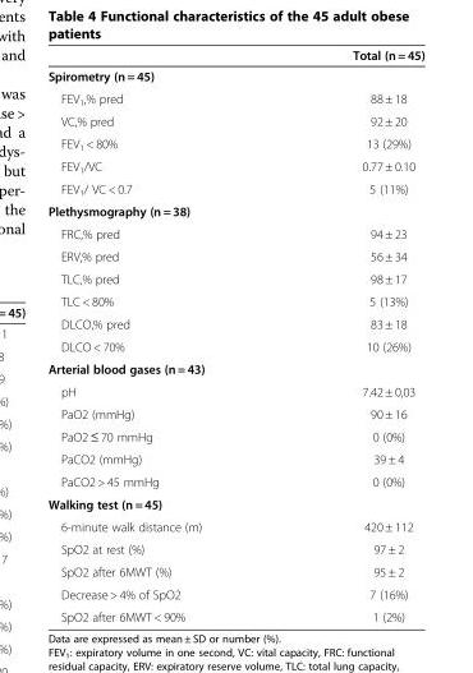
<table><thead><tr><td></td><td>Total (n = 45)</td></tr></thead><tbody><tr><td colspan="2">Spirometry (n = 45)</td></tr><tr><td>FEV<sub>1</sub>,% pred</td><td>88 ± 18</td></tr><tr><td>VC,% pred</td><td>92 ± 20</td></tr><tr><td>FEV<sub>1</sub> &lt; 80%</td><td>13 (29%)</td></tr><tr><td>FEV<sub>1</sub>/VC</td><td>0.77 ± 0.10</td></tr><tr><td>FEV<sub>1</sub>/ VC &lt; 0.7</td><td>5 (11%)</td></tr><tr><td colspan="2">Plethysmography (n = 38)</td></tr><tr><td>FRC,% pred</td><td>94 ± 23</td></tr><tr><td>ERV,% pred</td><td>56 ± 34</td></tr><tr><td>TLC,% pred</td><td>98 ± 17</td></tr><tr><td>TLC &lt; 80%</td><td>5 (13%)</td></tr><tr><td>DLCO,% pred</td><td>83 ± 18</td></tr><tr><td>DLCO &lt; 70%</td><td>10 (26%)</td></tr><tr><td colspan="2">Arterial blood gases (n = 43)</td></tr><tr><td>pH</td><td>7.42 ± 0,03</td></tr><tr><td>PaO2 (mmHg)</td><td>90 ± 16</td></tr><tr><td>PaO2 ≤ 70 mmHg</td><td>0 (0%)</td></tr><tr><td>PaCO2 (mmHg)</td><td>39 ± 4</td></tr><tr><td>PaCO2 &gt; 45 mmHg</td><td>0 (0%)</td></tr><tr><td colspan="2">Walking test (n = 45)</td></tr><tr><td>6-minute walk distance (m)</td><td>420 ± 112</td></tr><tr><td>SpO2 at rest (%)</td><td>97 ± 2</td></tr><tr><td>SpO2 after 6MWT (%)</td><td>95 ± 2</td></tr><tr><td>Decrease &gt; 4% of SpO2</td><td>7 (16%)</td></tr><tr><td>SpO2 after 6MWT &lt; 90%</td><td>1 (2%)</td></tr></tbody></table>